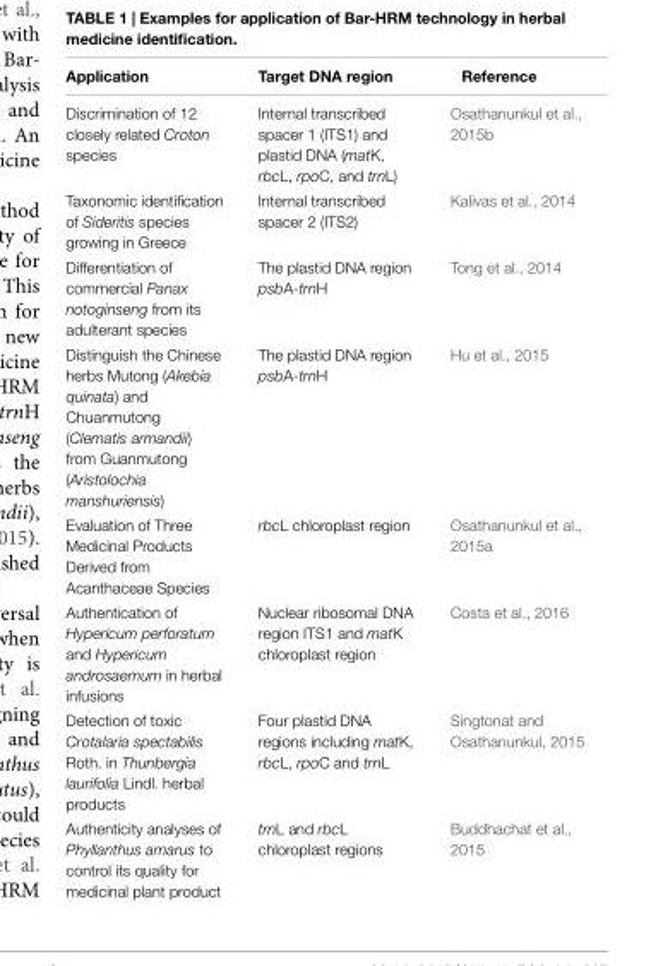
<table><thead><tr><td>Application</td><td>Target DNA region</td><td>Reference</td></tr></thead><tbody><tr><td>Discrimination of 12 closely related Croton species</td><td>Internal transcribed spacer 1 (ITS1) and plastid DNA (matK, rbcL, rpoC, and trnL)</td><td>Osathanunkul et al., 2015b</td></tr><tr><td>Taxonomic identification of Sideritis species growing in Greece</td><td>Internal transcribed spacer 2 (ITS2)</td><td>Kalivas et al., 2014</td></tr><tr><td>Differentiation of commercial Panax notoginseng from its adulterant species</td><td>The plastid DNA region psbA-trnH</td><td>Tong et al., 2014</td></tr><tr><td>Distinguish the Chinese herbs Mutong (Akebia quinata) and Chuanmutong (Clematis armandii) from Guanmutong (Aristolochia manshuriensis)</td><td>The plastid DNA region psbA-trnH</td><td>Hu et al., 2015</td></tr><tr><td>Evaluation of Three Medicinal Products Derived from Acanthaceae Species</td><td>rbcL chloroplast region</td><td>Osathanunkul et al., 2015a</td></tr><tr><td>Authentication of Hypericum perforatum and Hypericum androsaemum in herbal infusions</td><td>Nuclear ribosomal DNA region ITS1 and matK chloroplast region</td><td>Costa et al., 2016</td></tr><tr><td>Detection of toxic Crotalaria spectabilis Roth. in Thunbergia laurifolia Lindl. herbal products</td><td>Four plastid DNA regions including matK, rbcL, rpoC and trnL</td><td>Singtonat and Osathanunkul, 2015</td></tr><tr><td>Authenticity analyses of Phyllanthus amarus to control its quality for medicinal plant product</td><td>trnL and rbcL chloroplast regions</td><td>Buddhachat et al., 2015</td></tr></tbody></table>